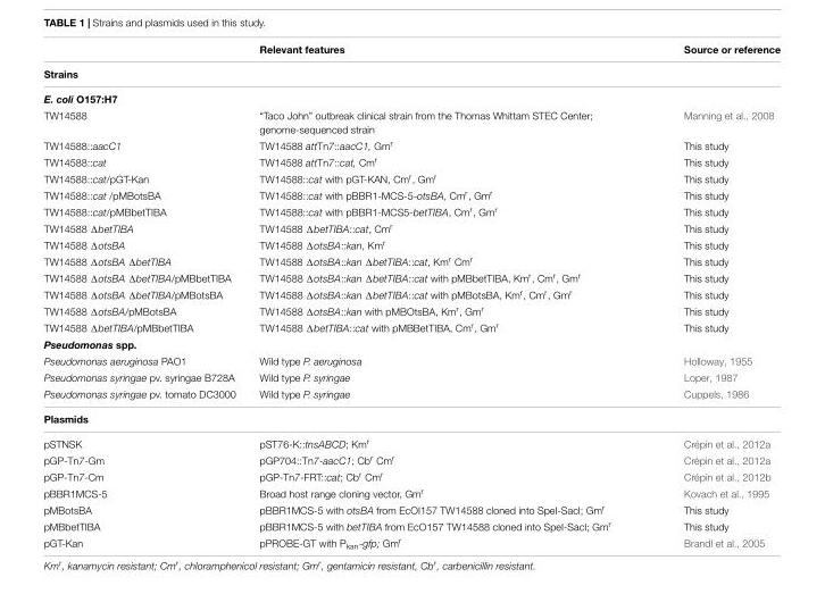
<table><thead><tr><td></td><td>Relevant features</td><td>Source or reference</td></tr></thead><tbody><tr><td colspan="3">Strains</td></tr><tr><td colspan="3">E. coli O157:H7</td></tr><tr><td>TW14588</td><td>“Taco John” outbreak clinical strain from the Thomas Whittam STEC Center; genome-sequenced strain</td><td>Manning et al., 2008</td></tr><tr><td>TW14588::aacC1</td><td>TW14588 attTn7::aacC1, Gm<sup>r</sup></td><td>This study</td></tr><tr><td>TW14588::cat</td><td>TW14588 attTn7::cat, Cm<sup>r</sup></td><td>This study</td></tr><tr><td>TW14588::cat/pGT-Kan</td><td>TW14588::cat with pGT-KAN, Cm<sup>r</sup>, Gm<sup>r</sup></td><td>This study</td></tr><tr><td>TW14588::cat /pMBotsBA</td><td>TW14588::cat with pBBR1-MCS-5-otsBA, Cm<sup>r</sup>, Gm<sup>r</sup></td><td>This study</td></tr><tr><td>TW14588::cat/pMBbetTIBA</td><td>TW14588::cat with pBBR1-MCS5-betTIBA, Cm<sup>r</sup>, Gm<sup>r</sup></td><td>This study</td></tr><tr><td>TW14588 ΔbetTIBA</td><td>TW14588 ΔbetTIBA::cat, Cm<sup>r</sup></td><td>This study</td></tr><tr><td>TW14588 ΔotsBA</td><td>TW14588 ΔotsBA::kan, Km<sup>r</sup></td><td>This study</td></tr><tr><td>TW14588 ΔotsBA ΔbetTIBA</td><td>TW14588 ΔotsBA::kan ΔbetTIBA::cat, Km<sup>r</sup> Cm<sup>r</sup></td><td>This study</td></tr><tr><td>TW14588 ΔotsBA ΔbetTIBA/pMBbetTIBA</td><td>TW14588 ΔotsBA::kan ΔbetTIBA::cat with pMBbetTIBA, Km<sup>r</sup>, Cm<sup>r</sup>, Gm<sup>r</sup></td><td>This study</td></tr><tr><td>TW14588 ΔotsBA ΔbetTIBA/pMBotsBA</td><td>TW14588 ΔotsBA::kan ΔbetTIBA::cat with pMBotsBA, Km<sup>r</sup>, Cm<sup>r</sup>, Gm<sup>r</sup></td><td>This study</td></tr><tr><td>TW14588 ΔotsBA/pMBotsBA</td><td>TW14588 ΔotsBA::kan with pMBOtsBA, Km<sup>r</sup>, Gm<sup>r</sup></td><td>This study</td></tr><tr><td>TW14588 ΔbetTIBA/pMBbetTIBA</td><td>TW14588 ΔbetTIBA::cat with pMBBetTIBA, Cm<sup>r</sup>, Gm<sup>r</sup></td><td>This study</td></tr><tr><td colspan="3">Pseudomonas spp.</td></tr><tr><td>Pseudomonas aeruginosa PAO1</td><td>Wild type P. aeruginosa</td><td>Holloway, 1955</td></tr><tr><td>Pseudomonas syringae pv. syringae B728A</td><td>Wild type P. syringae</td><td>Loper, 1987</td></tr><tr><td>Pseudomonas syringae pv. tomato DC3000</td><td>Wild type P. syringae</td><td>Cuppels, 1986</td></tr><tr><td colspan="3">Plasmids</td></tr><tr><td>pSTNSK</td><td>pST76-K::tnsABCD; Km<sup>r</sup></td><td>Crépin et al., 2012a</td></tr><tr><td>pGP-Tn7-Gm</td><td>pGP704::Tn7-aacC1; Cb<sup>r</sup> Cm<sup>r</sup></td><td>Crépin et al., 2012a</td></tr><tr><td>pGP-Tn7-Cm</td><td>pGP-Tn7-FRT::cat; Cb<sup>r</sup> Cm<sup>r</sup></td><td>Crépin et al., 2012b</td></tr><tr><td>pBBR1MCS-5</td><td>Broad host range cloning vector, Gm<sup>r</sup></td><td>Kovach et al., 1995</td></tr><tr><td>pMBotsBA</td><td>pBBR1MCS-5 with otsBA from EcOI157 TW14588 cloned into SpeI-SacI; Gm<sup>r</sup></td><td>This study</td></tr><tr><td>pMBbetTIBA</td><td>pBBR1MCS-5 with betTIBA from EcO157 TW14588 cloned into SpeI-SacI; Gm<sup>r</sup></td><td>This study</td></tr><tr><td>pGT-Kan</td><td>pPROBE-GT with P<sub>kan</sub>-gfp; Gm<sup>r</sup></td><td>Brandl et al., 2005</td></tr></tbody></table>